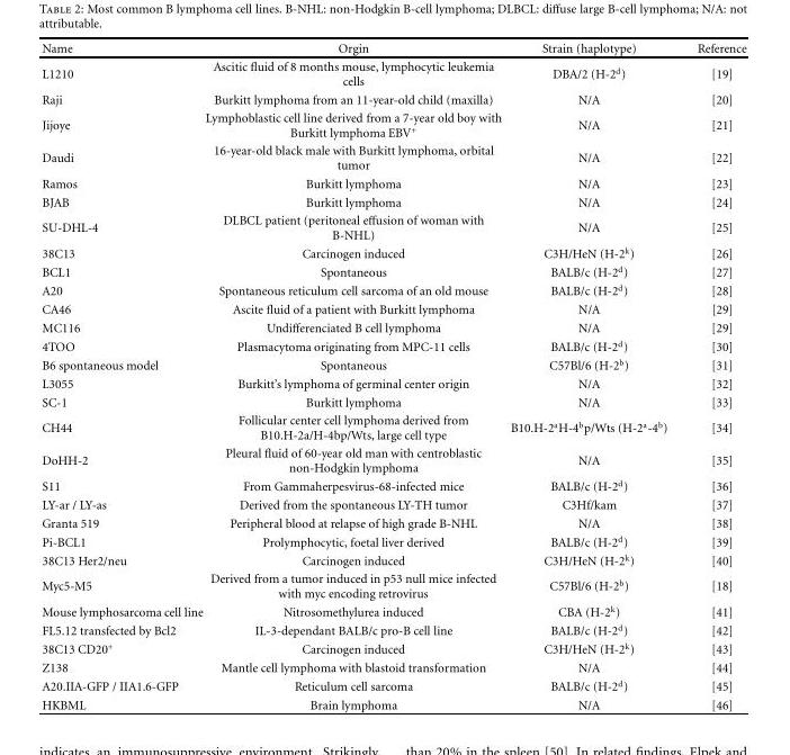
<table><thead><tr><td>Name</td><td>Orgin</td><td>Strain (haplotype)</td><td>Reference</td></tr></thead><tbody><tr><td>L1210</td><td>Ascitic fluid of 8 months mouse, lymphocytic leukemia cells</td><td>DBA/2 (H-2<sup>d</sup>)</td><td>[19]</td></tr><tr><td>Raji</td><td>Burkitt lymphoma from an 11-year-old child (maxilla)</td><td>N/A</td><td>[20]</td></tr><tr><td>Jijoye</td><td>Lymphoblastic cell line derived from a 7-year old boy with Burkitt lymphoma EBV<sup>+</sup></td><td>N/A</td><td>[21]</td></tr><tr><td>Daudi</td><td>16-year-old black male with Burkitt lymphoma, orbital tumor</td><td>N/A</td><td>[22]</td></tr><tr><td>Ramos</td><td>Burkitt lymphoma</td><td>N/A</td><td>[23]</td></tr><tr><td>BJAB</td><td>Burkitt lymphoma</td><td>N/A</td><td>[24]</td></tr><tr><td>SU-DHL-4</td><td>DLBCL patient (peritoneal effusion of woman with B-NHL)</td><td>N/A</td><td>[25]</td></tr><tr><td>38C13</td><td>Carcinogen induced</td><td>C3H/HeN (H-2<sup>k</sup>)</td><td>[26]</td></tr><tr><td>BCL1</td><td>Spontaneous</td><td>BALB/c (H-2<sup>d</sup>)</td><td>[27]</td></tr><tr><td>A20</td><td>Spontaneous reticulum cell sarcoma of an old mouse</td><td>BALB/c (H-2<sup>d</sup>)</td><td>[28]</td></tr><tr><td>CA46</td><td>Ascite fluid of a patient with Burkitt lymphoma</td><td>N/A</td><td>[29]</td></tr><tr><td>MC116</td><td>Undifferenciated B cell lymphoma</td><td>N/A</td><td>[29]</td></tr><tr><td>4TOO</td><td>Plasmacytoma originating from MPC-11 cells</td><td>BALB/c (H-2<sup>d</sup>)</td><td>[30]</td></tr><tr><td>B6 spontaneous model</td><td>Spontaneous</td><td>C57Bl/6 (H-2<sup>b</sup>)</td><td>[31]</td></tr><tr><td>L3055</td><td>Burkitt’s lymphoma of germinal center origin</td><td>N/A</td><td>[32]</td></tr><tr><td>SC-1</td><td>Burkitt lymphoma</td><td>N/A</td><td>[33]</td></tr><tr><td>CH44</td><td>Follicular center cell lymphoma derived from B10.H-2a/H-4bp/Wts, large cell type</td><td>B10.H-2<sup>a</sup>H-4<sup>b</sup>p/Wts (H-2<sup>a</sup>-4<sup>b</sup>)</td><td>[34]</td></tr><tr><td>DoHH-2</td><td>Pleural fluid of 60-year old man with centroblastic non-Hodgkin lymphoma</td><td>N/A</td><td>[35]</td></tr><tr><td>S11</td><td>From Gammaherpesvirus-68-infected mice</td><td>BALB/c (H-2<sup>d</sup>)</td><td>[36]</td></tr><tr><td>LY-ar / LY-as</td><td>Derived from the spontaneous LY-TH tumor</td><td>C3Hf/kam</td><td>[37]</td></tr><tr><td>Granta 519</td><td>Peripheral blood at relapse of high grade B-NHL</td><td>N/A</td><td>[38]</td></tr><tr><td>Pi-BCL1</td><td>Prolymphocytic, foetal liver derived</td><td>BALB/c (H-2<sup>d</sup>)</td><td>[39]</td></tr><tr><td>38C13 Her2/neu</td><td>Carcinogen induced</td><td>C3H/HeN (H-2<sup>k</sup>)</td><td>[40]</td></tr><tr><td>Myc5-M5</td><td>Derived from a tumor induced in p53 null mice infected with myc encoding retrovirus</td><td>C57Bl/6 (H-2<sup>b</sup>)</td><td>[18]</td></tr><tr><td>Mouse lymphosarcoma cell line</td><td>Nitrosomethylurea induced</td><td>CBA (H-2<sup>k</sup>)</td><td>[41]</td></tr><tr><td>FL5.12 transfected by Bcl2</td><td>IL-3-dependant BALB/c pro-B cell line</td><td>BALB/c (H-2<sup>d</sup>)</td><td>[42]</td></tr><tr><td>38C13 CD20<sup>+</sup></td><td>Carcinogen induced</td><td>C3H/HeN (H-2<sup>k</sup>)</td><td>[43]</td></tr><tr><td>Z138</td><td>Mantle cell lymphoma with blastoid transformation</td><td>N/A</td><td>[44]</td></tr><tr><td>A20.IIA-GFP / IIA1.6-GFP</td><td>Reticulum cell sarcoma</td><td>BALB/c (H-2<sup>d</sup>)</td><td>[45]</td></tr><tr><td>HKBML</td><td>Brain lymphoma</td><td>N/A</td><td>[46]</td></tr></tbody></table>